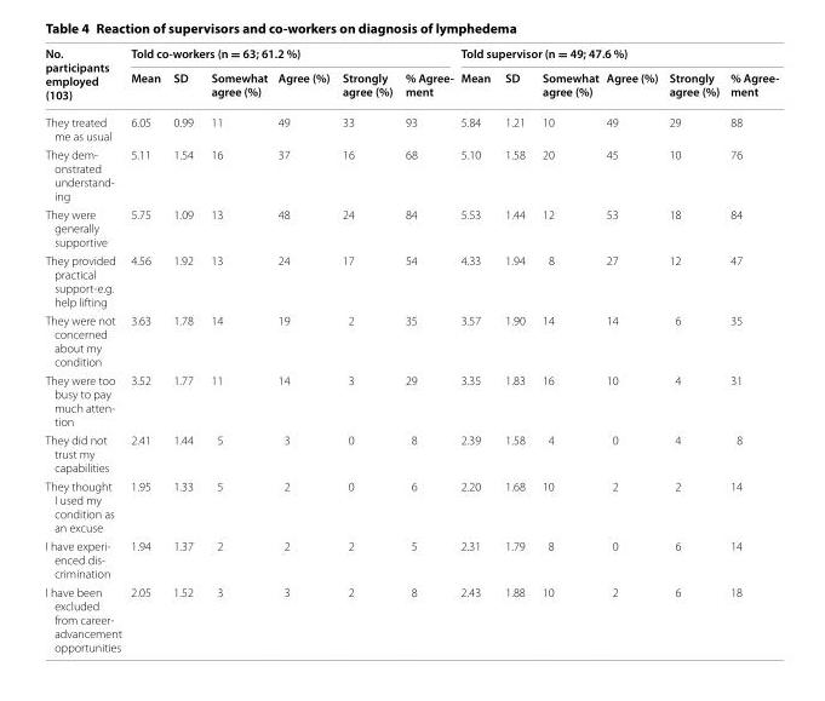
<table><thead><tr><td rowspan="2">No. participants employed (103)</td><td colspan="6">Told co-workers (n = 63; 61.2 %)</td><td colspan="6">Told supervisor (n = 49; 47.6 %)</td></tr><tr><td>Mean</td><td>SD</td><td>Somewhat agree (%)</td><td>Agree (%)</td><td>Strongly agree (%)</td><td>% Agree- ment</td><td>Mean</td><td>SD</td><td>Somewhat agree (%)</td><td>Agree (%)</td><td>Strongly agree (%)</td><td>% Agree- ment</td></tr></thead><tbody><tr><td>They treated me as usual</td><td>6.05</td><td>0.99</td><td>11</td><td>49</td><td>33</td><td>93</td><td>5.84</td><td>1.21</td><td>10</td><td>49</td><td>29</td><td>88</td></tr><tr><td>They dem- onstrated understand- ing</td><td>5.11</td><td>1.54</td><td>16</td><td>37</td><td>16</td><td>68</td><td>5.10</td><td>1.58</td><td>20</td><td>45</td><td>10</td><td>76</td></tr><tr><td>They were generally supportive</td><td>5.75</td><td>1.09</td><td>13</td><td>48</td><td>24</td><td>84</td><td>5.53</td><td>1.44</td><td>12</td><td>53</td><td>18</td><td>84</td></tr><tr><td>They provided practical support-e.g. help lifting</td><td>4.56</td><td>1.92</td><td>13</td><td>24</td><td>17</td><td>54</td><td>4.33</td><td>1.94</td><td>8</td><td>27</td><td>12</td><td>47</td></tr><tr><td>They were not concerned about my condition</td><td>3.63</td><td>1.78</td><td>14</td><td>19</td><td>2</td><td>35</td><td>3.57</td><td>1.90</td><td>14</td><td>14</td><td>6</td><td>35</td></tr><tr><td>They were too busy to pay much atten- tion</td><td>3.52</td><td>1.77</td><td>11</td><td>14</td><td>3</td><td>29</td><td>3.35</td><td>1.83</td><td>16</td><td>10</td><td>4</td><td>31</td></tr><tr><td>They did not trust my capabilities</td><td>2.41</td><td>1.44</td><td>5</td><td>3</td><td>0</td><td>8</td><td>2.39</td><td>1.58</td><td>4</td><td>0</td><td>4</td><td>8</td></tr><tr><td>They thought I used my condition as an excuse</td><td>1.95</td><td>1.33</td><td>5</td><td>2</td><td>0</td><td>6</td><td>2.20</td><td>1.68</td><td>10</td><td>2</td><td>2</td><td>14</td></tr><tr><td>I have experi- enced dis- crimination</td><td>1.94</td><td>1.37</td><td>2</td><td>2</td><td>2</td><td>5</td><td>2.31</td><td>1.79</td><td>8</td><td>0</td><td>6</td><td>14</td></tr><tr><td>I have been excluded from career- advancement opportunities</td><td>2.05</td><td>1.52</td><td>3</td><td>3</td><td>2</td><td>8</td><td>2.43</td><td>1.88</td><td>10</td><td>2</td><td>6</td><td>18</td></tr></tbody></table>